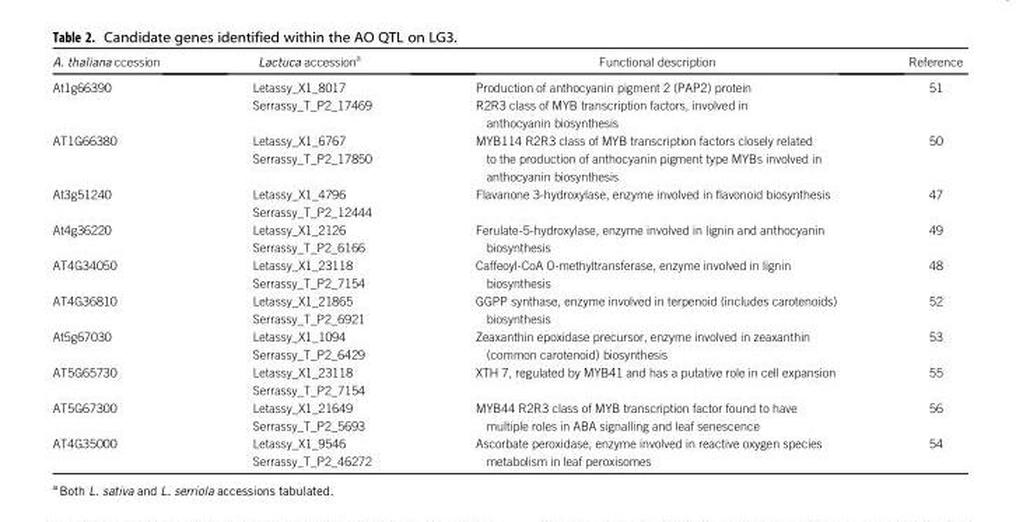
<table><thead><tr><td>A. thaliana ccession</td><td>Lactuca accession<sup>a</sup></td><td>Functional description</td><td>Reference</td></tr></thead><tbody><tr><td rowspan="2">At1g66390</td><td>Letassy_X1_8017</td><td>Production of anthocyanin pigment 2 (PAP2) protein</td><td rowspan="2">51</td></tr><tr><td>Serrassy_T_P2_17469</td><td>R2R3 class of MYB transcription factors, involved in anthocyanin biosynthesis</td></tr><tr><td rowspan="2">AT1G66380</td><td>Letassy_X1_6767</td><td rowspan="2">MYB114 R2R3 class of MYB transcription factors closely related to the production of anthocyanin pigment type MYBs involved in anthocyanin biosynthesis</td><td rowspan="2">50</td></tr><tr><td>Serrassy_T_P2_17850</td></tr><tr><td rowspan="2">At3g51240</td><td>Letassy_X1_4796</td><td rowspan="2">Flavanone 3-hydroxylase, enzyme involved in flavonoid biosynthesis</td><td rowspan="2">47</td></tr><tr><td>Serrassy_T_P2_12444</td></tr><tr><td rowspan="2">At4g36220</td><td>Letassy_X1_2126</td><td rowspan="2">Ferulate-5-hydroxylase, enzyme involved in lignin and anthocyanin biosynthesis</td><td rowspan="2">49</td></tr><tr><td>Serrassy_T_P2_6166</td></tr><tr><td rowspan="2">AT4G34050</td><td>Letassy_X1_23118</td><td rowspan="2">Caffeoyl-CoA O-methyltransferase, enzyme involved in lignin biosynthesis</td><td rowspan="2">48</td></tr><tr><td>Serrassy_T_P2_7154</td></tr><tr><td rowspan="2">AT4G36810</td><td>Letassy_X1_21865</td><td rowspan="2">GGPP synthase, enzyme involved in terpenoid (includes carotenoids) biosynthesis</td><td rowspan="2">52</td></tr><tr><td>Serrassy_T_P2_6921</td></tr><tr><td rowspan="2">At5g67030</td><td>Letassy_X1_1094</td><td rowspan="2">Zeaxanthin epoxidase precursor, enzyme involved in zeaxanthin (common carotenoid) biosynthesis</td><td rowspan="2">53</td></tr><tr><td>Serrassy_T_P2_6429</td></tr><tr><td rowspan="2">AT5G65730</td><td>Letassy_X1_23118</td><td rowspan="2">XTH 7, regulated by MYB41 and has a putative role in cell expansion</td><td rowspan="2">55</td></tr><tr><td>Serrassy_T_P2_7154</td></tr><tr><td rowspan="2">AT5G67300</td><td>Letassy_X1_21649</td><td rowspan="2">MYB44 R2R3 class of MYB transcription factor found to have multiple roles in ABA signalling and leaf senescence</td><td rowspan="2">56</td></tr><tr><td>Serrassy_T_P2_5693</td></tr><tr><td rowspan="2">AT4G35000</td><td>Letassy_X1_9546</td><td rowspan="2">Ascorbate peroxidase, enzyme involved in reactive oxygen species metabolism in leaf peroxisomes</td><td rowspan="2">54</td></tr><tr><td>Serrassy_T_P2_46272</td></tr></tbody></table>